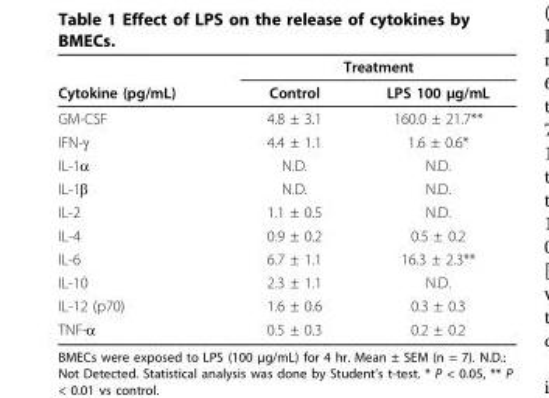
<table><thead><tr><td rowspan="2">Cytokine (pg/mL)</td><td colspan="2">Treatment</td></tr><tr><td>Control</td><td>LPS 100 μg/mL</td></tr></thead><tbody><tr><td>GM-CSF</td><td>4.8 ± 3.1</td><td>160.0 ± 21.7**</td></tr><tr><td>IFN-γ</td><td>4.4 ± 1.1</td><td>1.6 ± 0.6*</td></tr><tr><td>IL-1α</td><td>N.D.</td><td>N.D.</td></tr><tr><td>IL-1β</td><td>N.D.</td><td>N.D.</td></tr><tr><td>IL-2</td><td>1.1 ± 0.5</td><td>N.D.</td></tr><tr><td>IL-4</td><td>0.9 ± 0.2</td><td>0.5 ± 0.2</td></tr><tr><td>IL-6</td><td>6.7 ± 1.1</td><td>16.3 ± 2.3**</td></tr><tr><td>IL-10</td><td>2.3 ± 1.1</td><td>N.D.</td></tr><tr><td>IL-12 (p70)</td><td>1.6 ± 0.6</td><td>0.3 ± 0.3</td></tr><tr><td>TNF-α</td><td>0.5 ± 0.3</td><td>0.2 ± 0.2</td></tr></tbody></table>